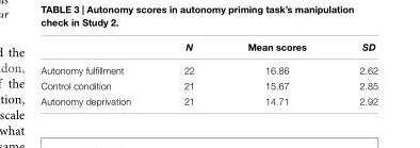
<table><thead><tr><td></td><td>N</td><td>Mean scores</td><td>SD</td></tr></thead><tbody><tr><td>Autonomy fulfillment</td><td>22</td><td>16.86</td><td>2.62</td></tr><tr><td>Control condition</td><td>21</td><td>15.67</td><td>2.85</td></tr><tr><td>Autonomy deprivation</td><td>21</td><td>14.71</td><td>2.92</td></tr></tbody></table>